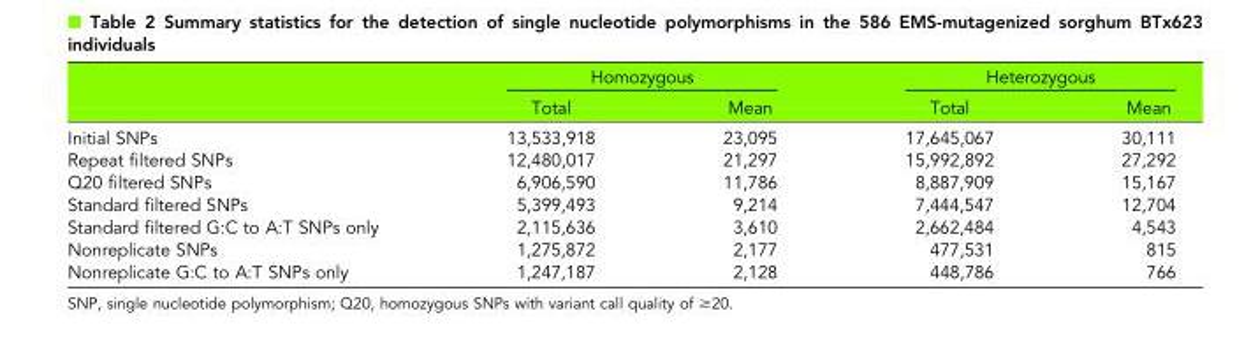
<table><thead><tr><td rowspan="2"></td><td colspan="2">Homozygous</td><td colspan="2">Heterozygous</td></tr><tr><td>Total</td><td>Mean</td><td>Total</td><td>Mean</td></tr></thead><tbody><tr><td>Initial SNPs</td><td>13,533,918</td><td>23,095</td><td>17,645,067</td><td>30,111</td></tr><tr><td>Repeat filtered SNPs</td><td>12,480,017</td><td>21,297</td><td>15,992,892</td><td>27,292</td></tr><tr><td>Q20 filtered SNPs</td><td>6,906,590</td><td>11,786</td><td>8,887,909</td><td>15,167</td></tr><tr><td>Standard filtered SNPs</td><td>5,399,493</td><td>9,214</td><td>7,444,547</td><td>12,704</td></tr><tr><td>Standard filtered G:C to A:T SNPs only</td><td>2,115,636</td><td>3,610</td><td>2,662,484</td><td>4,543</td></tr><tr><td>Nonreplicate SNPs</td><td>1,275,872</td><td>2,177</td><td>477,531</td><td>815</td></tr><tr><td>Nonreplicate G:C to A:T SNPs only</td><td>1,247,187</td><td>2,128</td><td>448,786</td><td>766</td></tr></tbody></table>